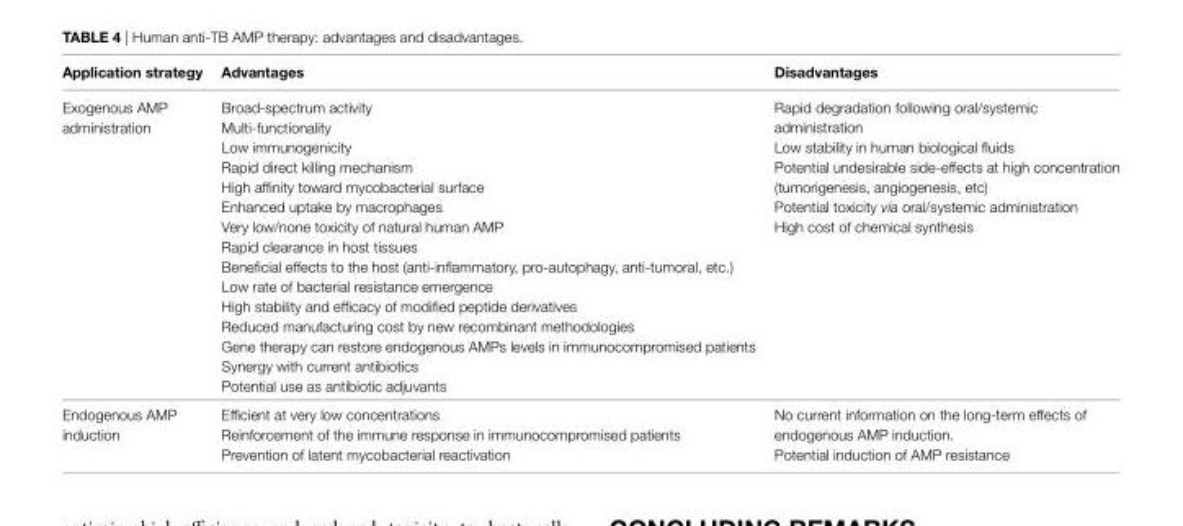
<table><thead><tr><td>Application strategy</td><td>Advantages</td><td>Disadvantages</td></tr></thead><tbody><tr><td>Exogenous AMP administration</td><td>Broad-spectrum activity Multi-functionality Low immunogenicity Rapid direct killing mechanism High affinity toward mycobacterial surface Enhanced uptake by macrophages Very low/none toxicity of natural human AMP Rapid clearance in host tissues Beneficial effects to the host (anti-inflammatory, pro-autophagy, anti-tumoral, etc.) Low rate of bacterial resistance emergence High stability and efficacy of modified peptide derivatives Reduced manufacturing cost by new recombinant methodologies Gene therapy can restore endogenous AMPs levels in immunocompromised patients Synergy with current antibiotics Potential use as antibiotic adjuvants</td><td>Rapid degradation following oral/systemic administration Low stability in human biological fluids Potential undesirable side-effects at high concentration (tumorigenesis, angiogenesis, etc) Potential toxicity via oral/systemic administration High cost of chemical synthesis</td></tr><tr><td>Endogenous AMP induction</td><td>Efficient at very low concentrations Reinforcement of the immune response in immunocompromised patients Prevention of latent mycobacterial reactivation</td><td>No current information on the long-term effects of endogenous AMP induction. Potential induction of AMP resistance</td></tr></tbody></table>